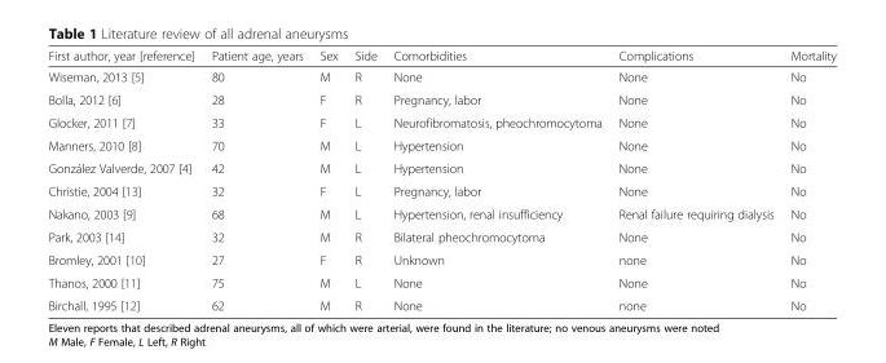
<table><thead><tr><td>First author, year [reference]</td><td>Patient age, years</td><td>Sex</td><td>Side</td><td>Comorbidities</td><td>Complications</td><td>Mortality</td></tr></thead><tbody><tr><td>Wiseman, 2013 [5]</td><td>80</td><td>M</td><td>R</td><td>None</td><td>None</td><td>No</td></tr><tr><td>Bolla, 2012 [6]</td><td>28</td><td>F</td><td>R</td><td>Pregnancy, labor</td><td>None</td><td>No</td></tr><tr><td>Glocker, 2011 [7]</td><td>33</td><td>F</td><td>L</td><td>Neurofibromatosis, pheochromocytoma</td><td>None</td><td>No</td></tr><tr><td>Manners, 2010 [8]</td><td>70</td><td>M</td><td>L</td><td>Hypertension</td><td>None</td><td>No</td></tr><tr><td>González Valverde, 2007 [4]</td><td>42</td><td>M</td><td>L</td><td>Hypertension</td><td>None</td><td>No</td></tr><tr><td>Christie, 2004 [13]</td><td>32</td><td>F</td><td>L</td><td>Pregnancy, labor</td><td>None</td><td>No</td></tr><tr><td>Nakano, 2003 [9]</td><td>68</td><td>M</td><td>L</td><td>Hypertension, renal insufficiency</td><td>Renal failure requiring dialysis</td><td>No</td></tr><tr><td>Park, 2003 [14]</td><td>32</td><td>M</td><td>R</td><td>Bilateral pheochromocytoma</td><td>None</td><td>No</td></tr><tr><td>Bromley, 2001 [10]</td><td>27</td><td>F</td><td>R</td><td>Unknown</td><td>none</td><td>No</td></tr><tr><td>Thanos, 2000 [11]</td><td>75</td><td>M</td><td>L</td><td>None</td><td>None</td><td>No</td></tr><tr><td>Birchall, 1995 [12]</td><td>62</td><td>M</td><td>R</td><td>None</td><td>none</td><td>No</td></tr></tbody></table>